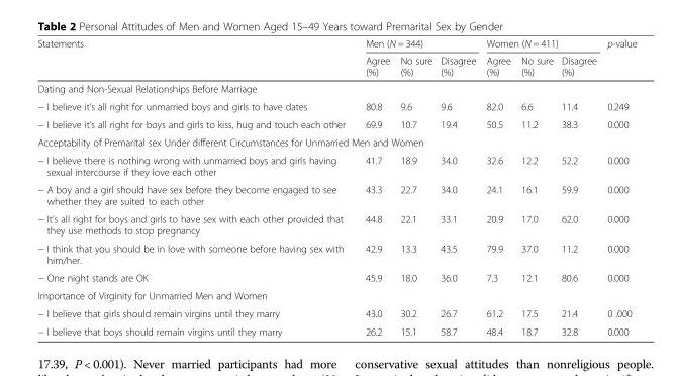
<table><thead><tr><td rowspan="2">Statements</td><td colspan="3">Men (N = 344)</td><td colspan="3">Women (N = 411)</td><td rowspan="2">p-value</td></tr><tr><td>Agree (%)</td><td>No sure (%)</td><td>Disagree (%)</td><td>Agree (%)</td><td>No sure (%)</td><td>Disagree (%)</td></tr></thead><tbody><tr><td colspan="8">Dating and Non-Sexual Relationships Before Marriage</td></tr><tr><td>− I believe it’s all right for unmarried boys and girls to have dates</td><td>80.8</td><td>9.6</td><td>9.6</td><td>82.0</td><td>6.6</td><td>11.4</td><td>0.249</td></tr><tr><td>− I believe it’s all right for boys and girls to kiss, hug and touch each other</td><td>69.9</td><td>10.7</td><td>19.4</td><td>50.5</td><td>11.2</td><td>38.3</td><td>0.000</td></tr><tr><td colspan="8">Acceptability of Premarital sex Under different Circumstances for Unmarried Men and Women</td></tr><tr><td>− I believe there is nothing wrong with unmarried boys and girls having sexual intercourse if they love each other</td><td>41.7</td><td>18.9</td><td>34.0</td><td>32.6</td><td>12.2</td><td>52.2</td><td>0.000</td></tr><tr><td>− A boy and a girl should have sex before they become engaged to see whether they are suited to each other</td><td>43.3</td><td>22.7</td><td>34.0</td><td>24.1</td><td>16.1</td><td>59.9</td><td>0.000</td></tr><tr><td>− It’s all right for boys and girls to have sex with each other provided that they use methods to stop pregnancy</td><td>44.8</td><td>22.1</td><td>33.1</td><td>20.9</td><td>17.0</td><td>62.0</td><td>0.000</td></tr><tr><td>− I think that you should be in love with someone before having sex with him/her.</td><td>42.9</td><td>13.3</td><td>43.5</td><td>79.9</td><td>37.0</td><td>11.2</td><td>0.000</td></tr><tr><td>− One night stands are OK</td><td>45.9</td><td>18.0</td><td>36.0</td><td>7.3</td><td>12.1</td><td>80.6</td><td>0.000</td></tr><tr><td colspan="8">Importance of Virginity for Unmarried Men and Women</td></tr><tr><td>− I believe that girls should remain virgins until they marry</td><td>43.0</td><td>30.2</td><td>26.7</td><td>61.2</td><td>17.5</td><td>21.4</td><td>0 .000</td></tr><tr><td>− I believe that boys should remain virgins until they marry</td><td>26.2</td><td>15.1</td><td>58.7</td><td>48.4</td><td>18.7</td><td>32.8</td><td>0.000</td></tr></tbody></table>